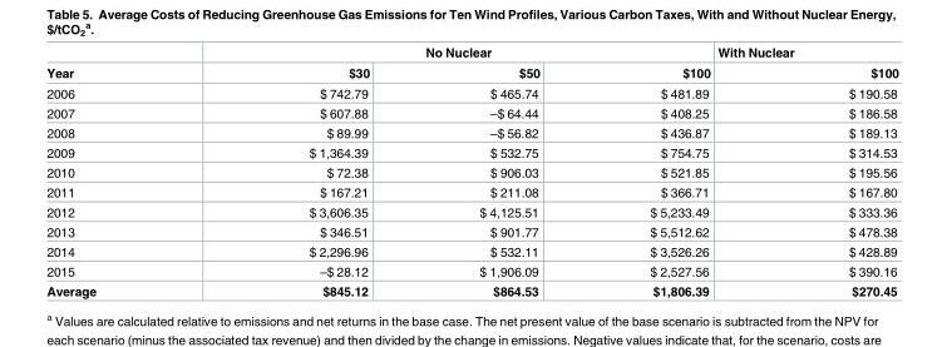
<table><thead><tr><td rowspan="2">Year</td><td colspan="3">No Nuclear</td><td rowspan="2">With Nuclear $100</td></tr><tr><td>$30</td><td>$50</td><td>$100</td></tr></thead><tbody><tr><td>2006</td><td>$ 742.79</td><td>$ 465.74</td><td>$ 481.89</td><td>$ 190.58</td></tr><tr><td>2007</td><td>$ 607.88</td><td>–$ 64.44</td><td>$ 408.25</td><td>$ 186.58</td></tr><tr><td>2008</td><td>$ 89.99</td><td>–$ 56.82</td><td>$ 436.87</td><td>$ 189.13</td></tr><tr><td>2009</td><td>$ 1,364.39</td><td>$ 532.75</td><td>$ 754.75</td><td>$ 314.53</td></tr><tr><td>2010</td><td>$ 72.38</td><td>$ 906.03</td><td>$ 521.85</td><td>$ 195.56</td></tr><tr><td>2011</td><td>$ 167.21</td><td>$ 211.08</td><td>$ 366.71</td><td>$ 167.80</td></tr><tr><td>2012</td><td>$ 3,606.35</td><td>$ 4,125.51</td><td>$ 5,233.49</td><td>$ 333.36</td></tr><tr><td>2013</td><td>$ 346.51</td><td>$ 901.77</td><td>$ 5,512.62</td><td>$ 478.38</td></tr><tr><td>2014</td><td>$ 2,296.96</td><td>$ 532.11</td><td>$ 3,526.26</td><td>$ 428.89</td></tr><tr><td>2015</td><td>–$ 28.12</td><td>$ 1,906.09</td><td>$ 2,527.56</td><td>$ 390.16</td></tr><tr><td>Average</td><td>$845.12</td><td>$864.53</td><td>$1,806.39</td><td>$270.45</td></tr></tbody></table>